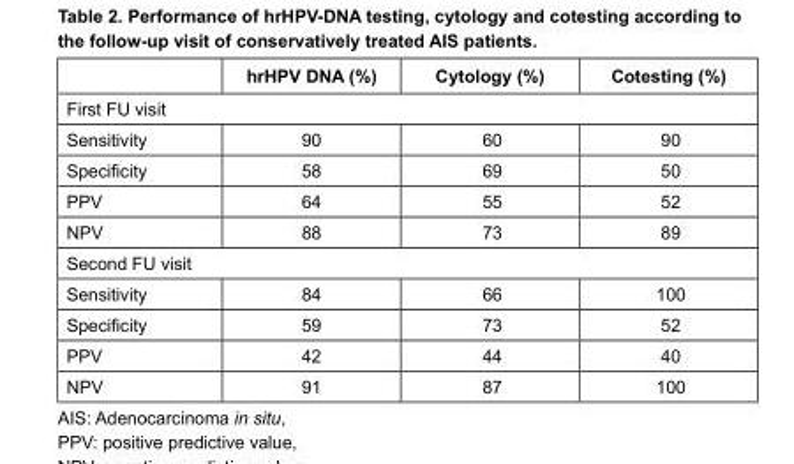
<table><thead><tr><td></td><td>hrHPV DNA (%)</td><td>Cytology (%)</td><td>Cotesting (%)</td></tr></thead><tbody><tr><td colspan="4">First FU visit</td></tr><tr><td>Sensitivity</td><td>90</td><td>60</td><td>90</td></tr><tr><td>Specificity</td><td>58</td><td>69</td><td>50</td></tr><tr><td>PPV</td><td>64</td><td>55</td><td>52</td></tr><tr><td>NPV</td><td>88</td><td>73</td><td>89</td></tr><tr><td colspan="4">Second FU visit</td></tr><tr><td>Sensitivity</td><td>84</td><td>66</td><td>100</td></tr><tr><td>Specificity</td><td>59</td><td>73</td><td>52</td></tr><tr><td>PPV</td><td>42</td><td>44</td><td>40</td></tr><tr><td>NPV</td><td>91</td><td>87</td><td>100</td></tr></tbody></table>